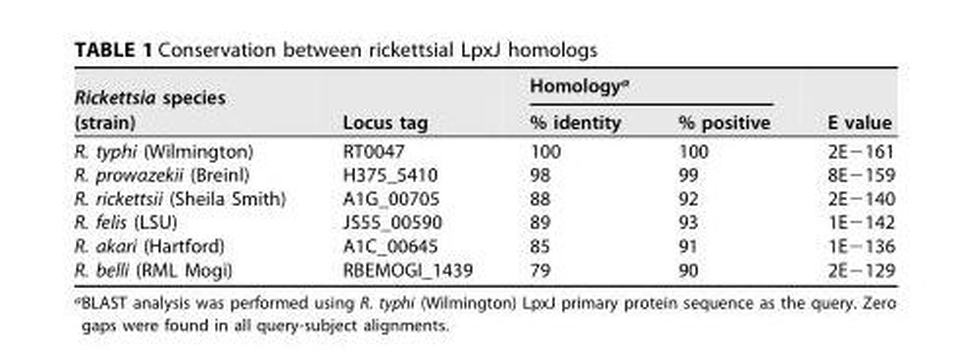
<table><thead><tr><td rowspan="2">Rickettsia species (strain)</td><td rowspan="2">Locus tag</td><td colspan="2">Homology<sup>a</sup></td><td rowspan="2">E value</td></tr><tr><td>% identity</td><td>% positive</td></tr></thead><tbody><tr><td>R. typhi (Wilmington)</td><td>RT0047</td><td>100</td><td>100</td><td>2E−161</td></tr><tr><td>R. prowazekii (Breinl)</td><td>H375_5410</td><td>98</td><td>99</td><td>8E−159</td></tr><tr><td>R. rickettsii (Sheila Smith)</td><td>A1G_00705</td><td>88</td><td>92</td><td>2E−140</td></tr><tr><td>R. felis (LSU)</td><td>JS55_00590</td><td>89</td><td>93</td><td>1E−142</td></tr><tr><td>R. akari (Hartford)</td><td>A1C_00645</td><td>85</td><td>91</td><td>1E−136</td></tr><tr><td>R. belli (RML Mogi)</td><td>RBEMOGI_1439</td><td>79</td><td>90</td><td>2E−129</td></tr></tbody></table>